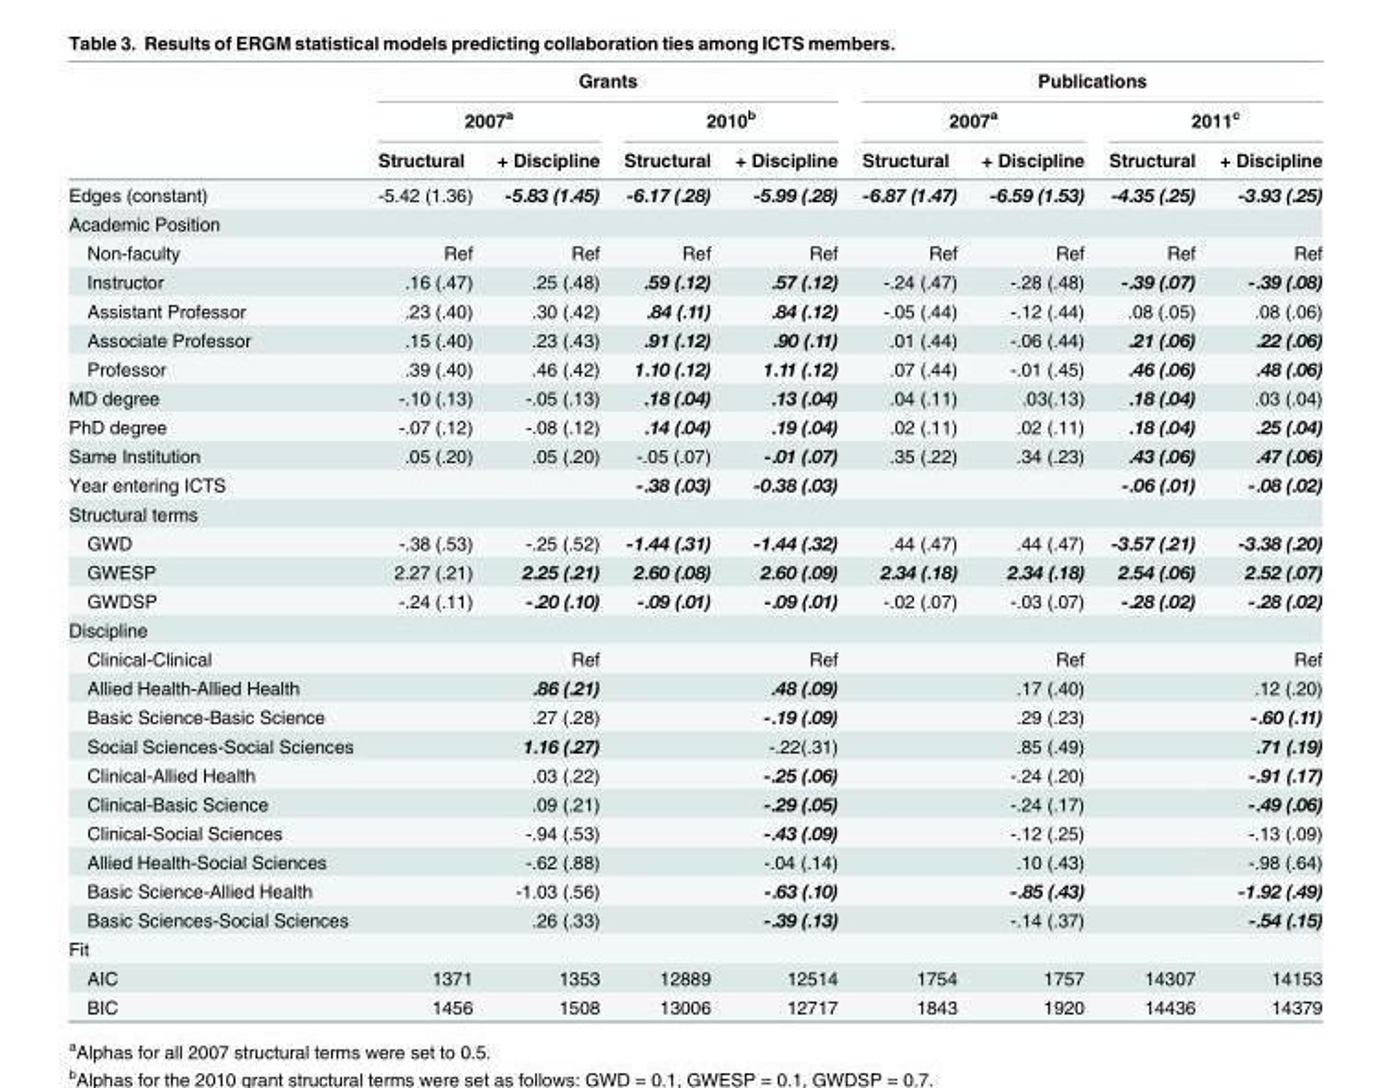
<table><thead><tr><td rowspan="3"></td><td colspan="4">Grants</td><td colspan="4">Publications</td></tr><tr><td colspan="2">2007<sup>a</sup></td><td colspan="2">2010<sup>b</sup></td><td colspan="2">2007<sup>a</sup></td><td colspan="2">2011<sup>c</sup></td></tr><tr><td>Structural</td><td>+ Discipline</td><td>Structural</td><td>+ Discipline</td><td>Structural</td><td>+ Discipline</td><td>Structural</td><td>+ Discipline</td></tr></thead><tbody><tr><td>Edges (constant)</td><td>-5.42 (1.36)</td><td>-5.83 (1.45)</td><td>-6.17 (.28)</td><td>-5.99 (.28)</td><td>-6.87 (1.47)</td><td>-6.59 (1.53)</td><td>-4.35 (.25)</td><td>-3.93 (.25)</td></tr><tr><td colspan="9">Academic Position</td></tr><tr><td>Non-faculty</td><td>Ref</td><td>Ref</td><td>Ref</td><td>Ref</td><td>Ref</td><td>Ref</td><td>Ref</td><td>Ref</td></tr><tr><td>Instructor</td><td>.16 (.47)</td><td>.25 (.48)</td><td>.59 (.12)</td><td>.57 (.12)</td><td>-.24 (.47)</td><td>-.28 (.48)</td><td>-.39 (.07)</td><td>-.39 (.08)</td></tr><tr><td>Assistant Professor</td><td>.23 (.40)</td><td>.30 (.42)</td><td>.84 (.11)</td><td>.84 (.12)</td><td>-.05 (.44)</td><td>-.12 (.44)</td><td>.08 (.05)</td><td>.08 (.06)</td></tr><tr><td>Associate Professor</td><td>.15 (.40)</td><td>.23 (.43)</td><td>.91 (.12)</td><td>.90 (.11)</td><td>.01 (.44)</td><td>-.06 (.44)</td><td>.21 (.06)</td><td>.22 (.06)</td></tr><tr><td>Professor</td><td>.39 (.40)</td><td>.46 (.42)</td><td>1.10 (.12)</td><td>1.11 (.12)</td><td>.07 (.44)</td><td>-.01 (.45)</td><td>.46 (.06)</td><td>.48 (.06)</td></tr><tr><td>MD degree</td><td>-.10 (.13)</td><td>-.05 (.13)</td><td>.18 (.04)</td><td>.13 (.04)</td><td>.04 (.11)</td><td>.03(.13)</td><td>.18 (.04)</td><td>.03 (.04)</td></tr><tr><td>PhD degree</td><td>-.07 (.12)</td><td>-.08 (.12)</td><td>.14 (.04)</td><td>.19 (.04)</td><td>.02 (.11)</td><td>.02 (.11)</td><td>.18 (.04)</td><td>.25 (.04)</td></tr><tr><td>Same Institution</td><td>.05 (.20)</td><td>.05 (.20)</td><td>-.05 (.07)</td><td>-.01 (.07)</td><td>.35 (.22)</td><td>.34 (.23)</td><td>.43 (.06)</td><td>.47 (.06)</td></tr><tr><td>Year entering ICTS</td><td></td><td></td><td>-.38 (.03)</td><td>-0.38 (.03)</td><td></td><td></td><td>-.06 (.01)</td><td>-.08 (.02)</td></tr><tr><td colspan="9">Structural terms</td></tr><tr><td>GWD</td><td>-.38 (.53)</td><td>-.25 (.52)</td><td>-1.44 (.31)</td><td>-1.44 (.32)</td><td>.44 (.47)</td><td>.44 (.47)</td><td>-3.57 (.21)</td><td>-3.38 (.20)</td></tr><tr><td>GWESP</td><td>2.27 (.21)</td><td>2.25 (.21)</td><td>2.60 (.08)</td><td>2.60 (.09)</td><td>2.34 (.18)</td><td>2.34 (.18)</td><td>2.54 (.06)</td><td>2.52 (.07)</td></tr><tr><td>GWDSP</td><td>-.24 (.11)</td><td>-.20 (.10)</td><td>-.09 (.01)</td><td>-.09 (.01)</td><td>-.02 (.07)</td><td>-.03 (.07)</td><td>-.28 (.02)</td><td>-.28 (.02)</td></tr><tr><td colspan="9">Discipline</td></tr><tr><td>Clinical-Clinical</td><td></td><td>Ref</td><td></td><td>Ref</td><td></td><td>Ref</td><td></td><td>Ref</td></tr><tr><td>Allied Health-Allied Health</td><td></td><td>.86 (.21)</td><td></td><td>.48 (.09)</td><td></td><td>.17 (.40)</td><td></td><td>.12 (.20)</td></tr><tr><td>Basic Science-Basic Science</td><td></td><td>.27 (.28)</td><td></td><td>-.19 (.09)</td><td></td><td>.29 (.23)</td><td></td><td>-.60 (.11)</td></tr><tr><td>Social Sciences-Social Sciences</td><td></td><td>1.16 (.27)</td><td></td><td>-.22(.31)</td><td></td><td>.85 (.49)</td><td></td><td>.71 (.19)</td></tr><tr><td>Clinical-Allied Health</td><td></td><td>.03 (.22)</td><td></td><td>-.25 (.06)</td><td></td><td>-.24 (.20)</td><td></td><td>-.91 (.17)</td></tr><tr><td>Clinical-Basic Science</td><td></td><td>.09 (.21)</td><td></td><td>-.29 (.05)</td><td></td><td>-.24 (.17)</td><td></td><td>-.49 (.06)</td></tr><tr><td>Clinical-Social Sciences</td><td></td><td>-.94 (.53)</td><td></td><td>-.43 (.09)</td><td></td><td>-.12 (.25)</td><td></td><td>-.13 (.09)</td></tr><tr><td>Allied Health-Social Sciences</td><td></td><td>-.62 (.88)</td><td></td><td>-.04 (.14)</td><td></td><td>.10 (.43)</td><td></td><td>-.98 (.64)</td></tr><tr><td>Basic Science-Allied Health</td><td></td><td>-1.03 (.56)</td><td></td><td>-.63 (.10)</td><td></td><td>-.85 (.43)</td><td></td><td>-1.92 (.49)</td></tr><tr><td>Basic Sciences-Social Sciences</td><td></td><td>.26 (.33)</td><td></td><td>-.39 (.13)</td><td></td><td>-.14 (.37)</td><td></td><td>-.54 (.15)</td></tr><tr><td colspan="9">Fit</td></tr><tr><td>AIC</td><td>1371</td><td>1353</td><td>12889</td><td>12514</td><td>1754</td><td>1757</td><td>14307</td><td>14153</td></tr><tr><td>BIC</td><td>1456</td><td>1508</td><td>13006</td><td>12717</td><td>1843</td><td>1920</td><td>14436</td><td>14379</td></tr></tbody></table>